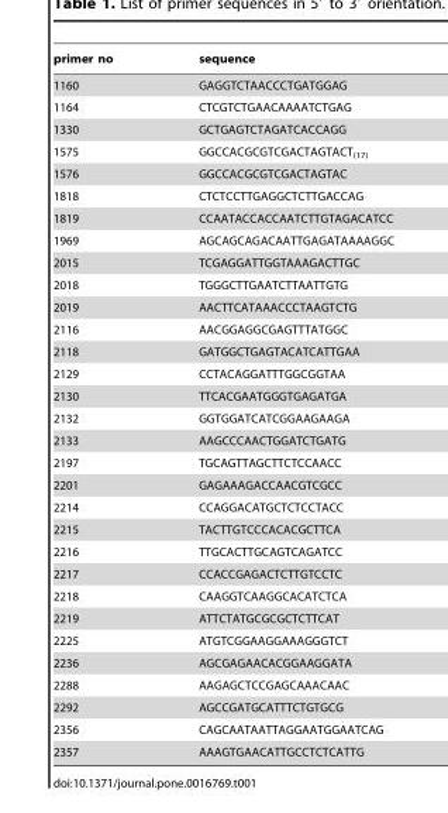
<table><thead><tr><td>primer no</td><td>sequence</td></tr></thead><tbody><tr><td>1160</td><td>GAGGTCTAACCCTGATGGAG</td></tr><tr><td>1164</td><td>CTCGTCTGAACAAAATCTGAG</td></tr><tr><td>1330</td><td>GCTGAGTCTAGATCACCAGG</td></tr><tr><td>1575</td><td>GGCCACGCGTCGACTAGTACT<sub>(17)</sub></td></tr><tr><td>1576</td><td>GGCCACGCGTCGACTAGTAC</td></tr><tr><td>1818</td><td>CTCTCCTTGAGGCTCTTGACCAG</td></tr><tr><td>1819</td><td>CCAATACCACCAATCTTGTAGACATCC</td></tr><tr><td>1969</td><td>AGCAGCAGACAATTGAGATAAAAGGC</td></tr><tr><td>2015</td><td>TCGAGGATTGGTAAAGACTTGC</td></tr><tr><td>2018</td><td>TGGGCTTGAATCTTAATTGTG</td></tr><tr><td>2019</td><td>AACTTCATAAACCCTAAGTCTG</td></tr><tr><td>2116</td><td>AACGGAGGCGAGTTTATGGC</td></tr><tr><td>2118</td><td>GATGGCTGAGTACATCATTGAA</td></tr><tr><td>2129</td><td>CCTACAGGATTTGGCGGTAA</td></tr><tr><td>2130</td><td>TTCACGAATGGGTGAGATGA</td></tr><tr><td>2132</td><td>GGTGGATCATCGGAAGAAGA</td></tr><tr><td>2133</td><td>AAGCCCAACTGGATCTGATG</td></tr><tr><td>2197</td><td>TGCAGTTAGCTTCTCCAACC</td></tr><tr><td>2201</td><td>GAGAAAGACCAACGTCGCC</td></tr><tr><td>2214</td><td>CCAGGACATGCTCTCCTACC</td></tr><tr><td>2215</td><td>TACTTGTCCCACACGCTTCA</td></tr><tr><td>2216</td><td>TTGCACTTGCAGTCAGATCC</td></tr><tr><td>2217</td><td>CCACCGAGACTCTTGTCCTC</td></tr><tr><td>2218</td><td>CAAGGTCAAGGCACATCTCA</td></tr><tr><td>2219</td><td>ATTCTATGCGCGCTCTTCAT</td></tr><tr><td>2225</td><td>ATGTCGGAAGGAAAGGGTCT</td></tr><tr><td>2236</td><td>AGCGAGAACACGGAAGGATA</td></tr><tr><td>2288</td><td>AAGAGCTCCGAGCAAACAAC</td></tr><tr><td>2292</td><td>AGCCGATGCATTTCTGTGCG</td></tr><tr><td>2356</td><td>CAGCAATAATTAGGAATGGAATCAG</td></tr><tr><td>2357</td><td>AAAGTGAACATTGCCTCTCATTG</td></tr></tbody></table>